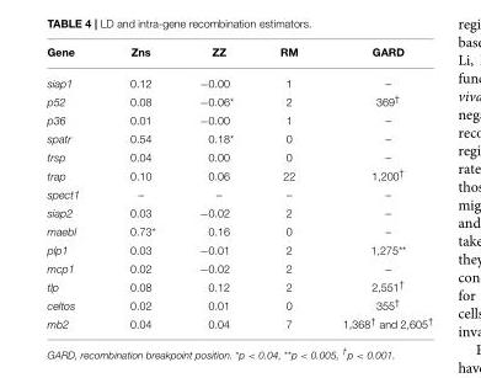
<table><thead><tr><td>Gene</td><td>Zns</td><td>ZZ</td><td>RM</td><td>GARD</td></tr></thead><tbody><tr><td>siap1</td><td>0.12</td><td>−0.00</td><td>1</td><td>–</td></tr><tr><td>p52</td><td>0.08</td><td>−0.06*</td><td>2</td><td>369<sup>†</sup></td></tr><tr><td>p36</td><td>0.01</td><td>−0.00</td><td>1</td><td>–</td></tr><tr><td>spatr</td><td>0.54</td><td>0.18*</td><td>0</td><td>–</td></tr><tr><td>trsp</td><td>0.04</td><td>0.00</td><td>0</td><td>–</td></tr><tr><td>trap</td><td>0.10</td><td>0.06</td><td>22</td><td>1,200<sup>†</sup></td></tr><tr><td>spect1</td><td>–</td><td>–</td><td>–</td><td>–</td></tr><tr><td>siap2</td><td>0.03</td><td>−0.02</td><td>2</td><td>–</td></tr><tr><td>maebl</td><td>0.73*</td><td>0.16</td><td>0</td><td>–</td></tr><tr><td>plp1</td><td>0.03</td><td>−0.01</td><td>2</td><td>1,275**</td></tr><tr><td>mcp1</td><td>0.02</td><td>−0.02</td><td>2</td><td>–</td></tr><tr><td>tlp</td><td>0.08</td><td>0.12</td><td>2</td><td>2,551<sup>†</sup></td></tr><tr><td>celtos</td><td>0.02</td><td>0.01</td><td>0</td><td>355<sup>†</sup></td></tr><tr><td>mb2</td><td>0.04</td><td>0.04</td><td>7</td><td>1,368<sup>†</sup> and 2,605<sup>†</sup></td></tr></tbody></table>